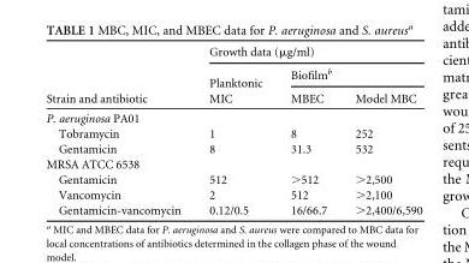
<table><thead><tr><td rowspan="3">Strain and antibiotic</td><td colspan="3">Growth data (μg/ml)</td></tr><tr><td rowspan="2">Planktonic MIC</td><td colspan="2">Biofilm<sup>b</sup></td></tr><tr><td>MBEC</td><td>Model MBC</td></tr></thead><tbody><tr><td colspan="4">P. aeruginosa PA01</td></tr><tr><td>Tobramycin</td><td>1</td><td>8</td><td>252</td></tr><tr><td>Gentamicin</td><td>8</td><td>31.3</td><td>532</td></tr><tr><td colspan="4">MRSA ATCC 6538</td></tr><tr><td>Gentamicin</td><td>512</td><td>&gt;512</td><td>&gt;2,500</td></tr><tr><td>Vancomycin</td><td>2</td><td>512</td><td>&gt;2,100</td></tr><tr><td>Gentamicin-vancomycin</td><td>0.12/0.5</td><td>16/66.7</td><td>&gt;2,400/6,590</td></tr></tbody></table>